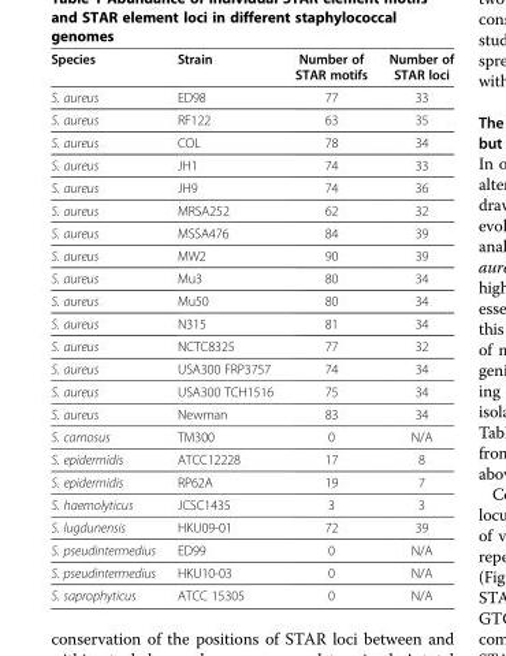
<table><thead><tr><td>Species</td><td>Strain</td><td>Number of STAR motifs</td><td>Number of STAR loci</td></tr></thead><tbody><tr><td>S. aureus</td><td>ED98</td><td>77</td><td>33</td></tr><tr><td>S. aureus</td><td>RF122</td><td>63</td><td>35</td></tr><tr><td>S. aureus</td><td>COL</td><td>78</td><td>34</td></tr><tr><td>S. aureus</td><td>JH1</td><td>74</td><td>33</td></tr><tr><td>S. aureus</td><td>JH9</td><td>74</td><td>36</td></tr><tr><td>S. aureus</td><td>MRSA252</td><td>62</td><td>32</td></tr><tr><td>S. aureus</td><td>MSSA476</td><td>84</td><td>39</td></tr><tr><td>S. aureus</td><td>MW2</td><td>90</td><td>39</td></tr><tr><td>S. aureus</td><td>Mu3</td><td>80</td><td>34</td></tr><tr><td>S. aureus</td><td>Mu50</td><td>80</td><td>34</td></tr><tr><td>S. aureus</td><td>N315</td><td>81</td><td>34</td></tr><tr><td>S. aureus</td><td>NCTC8325</td><td>77</td><td>32</td></tr><tr><td>S. aureus</td><td>USA300 FRP3757</td><td>74</td><td>34</td></tr><tr><td>S. aureus</td><td>USA300 TCH1516</td><td>75</td><td>34</td></tr><tr><td>S. aureus</td><td>Newman</td><td>83</td><td>34</td></tr><tr><td>S. carnosus</td><td>TM300</td><td>0</td><td>N/A</td></tr><tr><td>S. epidermidis</td><td>ATCC12228</td><td>17</td><td>8</td></tr><tr><td>S. epidermidis</td><td>RP62A</td><td>19</td><td>7</td></tr><tr><td>S. haemolyticus</td><td>JCSC1435</td><td>3</td><td>3</td></tr><tr><td>S. lugdunensis</td><td>HKU09-01</td><td>72</td><td>39</td></tr><tr><td>S. pseudintermedius</td><td>ED99</td><td>0</td><td>N/A</td></tr><tr><td>S. pseudintermedius</td><td>HKU10-03</td><td>0</td><td>N/A</td></tr><tr><td>S. saprophyticus</td><td>ATCC 15305</td><td>0</td><td>N/A</td></tr></tbody></table>